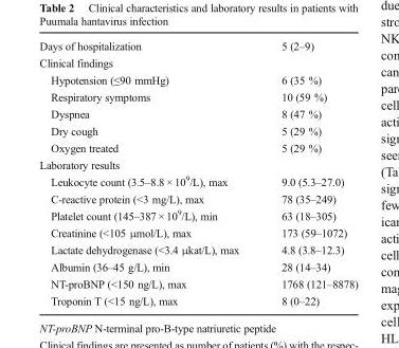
<table><tbody><tr><td>Days of hospitalization</td><td>5 (2–9)</td></tr><tr><td colspan="2">Clinical findings</td></tr><tr><td>Hypotension (≤90 mmHg)</td><td>6 (35 %)</td></tr><tr><td>Respiratory symptoms</td><td>10 (59 %)</td></tr><tr><td>Dyspnea</td><td>8 (47 %)</td></tr><tr><td>Dry cough</td><td>5 (29 %)</td></tr><tr><td>Oxygen treated</td><td>5 (29 %)</td></tr><tr><td colspan="2">Laboratory results</td></tr><tr><td>Leukocyte count (3.5–8.8 × 10<sup>9</sup>/L), max</td><td>9.0 (5.3–27.0)</td></tr><tr><td>C-reactive protein (&lt;3 mg/L), max</td><td>78 (35–249)</td></tr><tr><td>Platelet count (145–387 × 10<sup>9</sup>/L), min</td><td>63 (18–305)</td></tr><tr><td>Creatinine (&lt;105 μmol/L), max</td><td>173 (59–1072)</td></tr><tr><td>Lactate dehydrogenase (&lt;3.4 μkat/L), max</td><td>4.8 (3.8–12.3)</td></tr><tr><td>Albumin (36–45 g/L), min</td><td>28 (14–34)</td></tr><tr><td>NT-proBNP (&lt;150 ng/L), max</td><td>1768 (121–8878)</td></tr><tr><td>Troponin T (&lt;15 ng/L), max</td><td>8 (0–22)</td></tr></tbody></table>